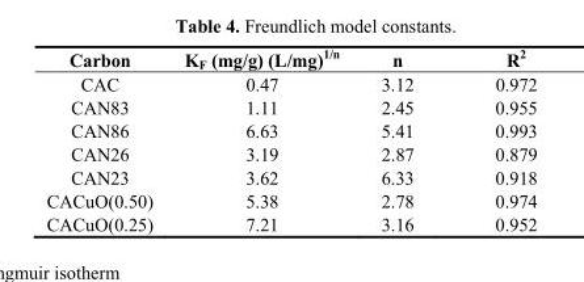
<table><thead><tr><td>Carbon</td><td>K<sub>F</sub> (mg/g) (L/mg)<sup>1/n</sup></td><td>n</td><td>R<sup>2</sup></td></tr></thead><tbody><tr><td>CAC</td><td>0.47</td><td>3.12</td><td>0.972</td></tr><tr><td>CAN83</td><td>1.11</td><td>2.45</td><td>0.955</td></tr><tr><td>CAN86</td><td>6.63</td><td>5.41</td><td>0.993</td></tr><tr><td>CAN26</td><td>3.19</td><td>2.87</td><td>0.879</td></tr><tr><td>CAN23</td><td>3.62</td><td>6.33</td><td>0.918</td></tr><tr><td>CACuO(0.50)</td><td>5.38</td><td>2.78</td><td>0.974</td></tr><tr><td>CACuO(0.25)</td><td>7.21</td><td>3.16</td><td>0.952</td></tr></tbody></table>